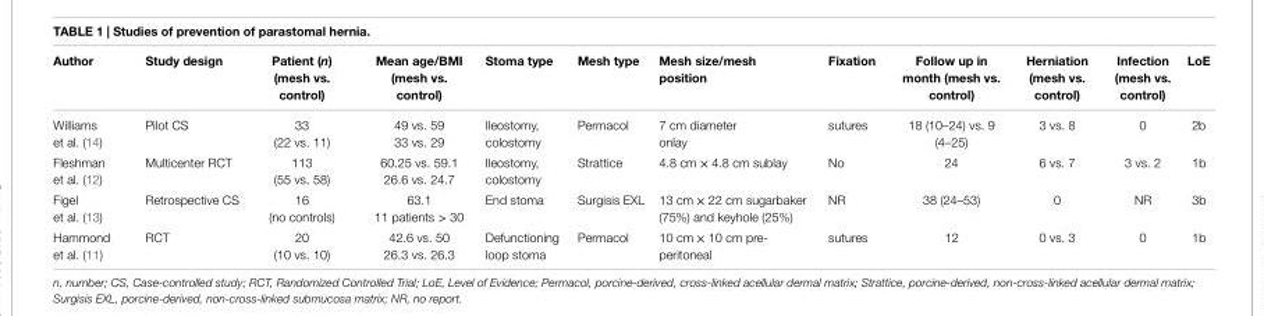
<table><thead><tr><td>Author</td><td>Study design</td><td>Patient (n) (mesh vs. control)</td><td>Mean age/BMi (mesh vs. control)</td><td>Stoma type</td><td>Mesh type</td><td>Mesh size/mesh position</td><td>Fixation</td><td>Follow up in month (mesh vs. control)</td><td>Herniation (mesh vs. control)</td><td>infection (mesh vs. control)</td><td>Loe</td></tr></thead><tbody><tr><td rowspan="2">Williams et al. (14)</td><td rowspan="2">Pilot CS</td><td rowspan="2">33 (22 vs. 11)</td><td>49 vs. 59</td><td rowspan="2">Ileostomy, colostomy</td><td rowspan="2">Permacol</td><td rowspan="2">7 cm diameter onlay</td><td rowspan="2">sutures</td><td rowspan="2">18 (10–24) vs. 9 (4–25)</td><td rowspan="2">3 vs. 8</td><td rowspan="2">0</td><td rowspan="2">2b</td></tr><tr><td>33 vs. 29</td></tr><tr><td rowspan="2">Fleshman et al. (12)</td><td rowspan="2">Multicenter RCT</td><td rowspan="2">113 (55 vs. 58)</td><td>60.25 vs. 59.1</td><td rowspan="2">Ileostomy, colostomy</td><td rowspan="2">Strattice</td><td rowspan="2">4.8 cm × 4.8 cm sublay</td><td rowspan="2">No</td><td rowspan="2">24</td><td rowspan="2">6 vs. 7</td><td rowspan="2">3 vs. 2</td><td rowspan="2">1b</td></tr><tr><td>26.6 vs. 24.7</td></tr><tr><td rowspan="2">Figel et al. (13)</td><td rowspan="2">Retrospective CS</td><td rowspan="2">16 (no controls)</td><td>63.1</td><td rowspan="2">End stoma</td><td rowspan="2">Surgisis EXL</td><td rowspan="2">13 cm × 22 cm sugarbaker (75%) and keyhole (25%)</td><td rowspan="2">NR</td><td rowspan="2">38 (24–53)</td><td rowspan="2">0</td><td rowspan="2">NR</td><td rowspan="2">3b</td></tr><tr><td>11 patients &gt; 30</td></tr><tr><td rowspan="2">Hammond et al. (11)</td><td rowspan="2">RCT</td><td rowspan="2">20 (10 vs. 10)</td><td>42.6 vs. 50</td><td rowspan="2">Defunctioning loop stoma</td><td rowspan="2">Permacol</td><td rowspan="2">10 cm × 10 cm pre- peritoneal</td><td rowspan="2">sutures</td><td rowspan="2">12</td><td rowspan="2">0 vs. 3</td><td rowspan="2">0</td><td rowspan="2">1b</td></tr><tr><td>26.3 vs. 26.3</td></tr></tbody></table>